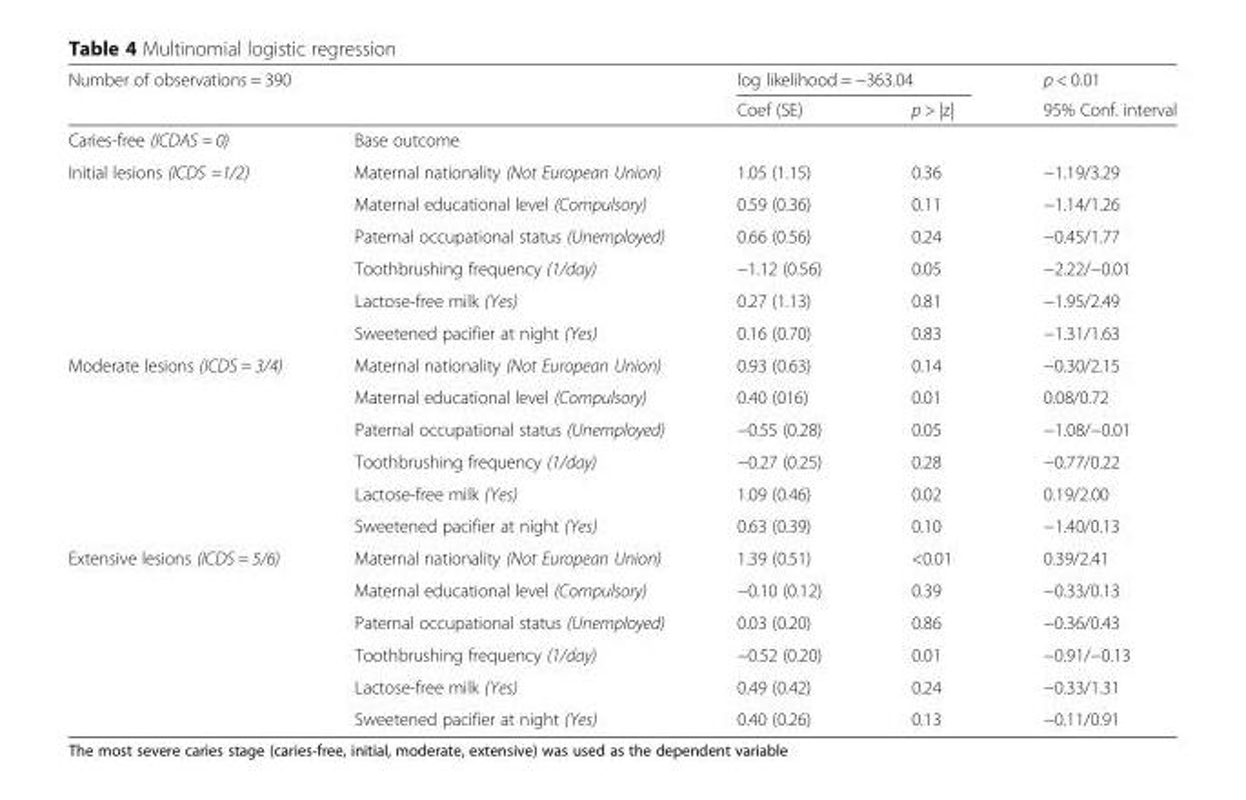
<table><thead><tr><td colspan="2">Number of observations = 390</td><td colspan="2">log likelihood = −363.04</td><td rowspan="2">p &lt; 0.01 95% Conf. interval</td></tr><tr><td></td><td></td><td>Coef (SE)</td><td>p &gt; |z|</td></tr></thead><tbody><tr><td>Caries-free (ICDAS = 0)</td><td colspan="4">Base outcome</td></tr><tr><td rowspan="6">Initial lesions (ICDS =1/2)</td><td>Maternal nationality (Not European Union)</td><td>1.05 (1.15)</td><td>0.36</td><td>−1.19/3.29</td></tr><tr><td>Maternal educational level (Compulsory)</td><td>0.59 (0.36)</td><td>0.11</td><td>−1.14/1.26</td></tr><tr><td>Paternal occupational status (Unemployed)</td><td>0.66 (0.56)</td><td>0.24</td><td>−0.45/1.77</td></tr><tr><td>Toothbrushing frequency (1/day)</td><td>−1.12 (0.56)</td><td>0.05</td><td>−2.22/−0.01</td></tr><tr><td>Lactose-free milk (Yes)</td><td>0.27 (1.13)</td><td>0.81</td><td>−1.95/2.49</td></tr><tr><td>Sweetened pacifier at night (Yes)</td><td>0.16 (0.70)</td><td>0.83</td><td>−1.31/1.63</td></tr><tr><td rowspan="6">Moderate lesions (ICDS = 3/4)</td><td>Maternal nationality (Not European Union)</td><td>0.93 (0.63)</td><td>0.14</td><td>−0.30/2.15</td></tr><tr><td>Maternal educational level (Compulsory)</td><td>0.40 (016)</td><td>0.01</td><td>0.08/0.72</td></tr><tr><td>Paternal occupational status (Unemployed)</td><td>−0.55 (0.28)</td><td>0.05</td><td>−1.08/−0.01</td></tr><tr><td>Toothbrushing frequency (1/day)</td><td>−0.27 (0.25)</td><td>0.28</td><td>−0.77/0.22</td></tr><tr><td>Lactose-free milk (Yes)</td><td>1.09 (0.46)</td><td>0.02</td><td>0.19/2.00</td></tr><tr><td>Sweetened pacifier at night (Yes)</td><td>0.63 (0.39)</td><td>0.10</td><td>−1.40/0.13</td></tr><tr><td rowspan="6">Extensive lesions (ICDS = 5/6)</td><td>Maternal nationality (Not European Union)</td><td>1.39 (0.51)</td><td>&lt;0.01</td><td>0.39/2.41</td></tr><tr><td>Maternal educational level (Compulsory)</td><td>−0.10 (0.12)</td><td>0.39</td><td>−0.33/0.13</td></tr><tr><td>Paternal occupational status (Unemployed)</td><td>0.03 (0.20)</td><td>0.86</td><td>−0.36/0.43</td></tr><tr><td>Toothbrushing frequency (1/day)</td><td>−0.52 (0.20)</td><td>0.01</td><td>−0.91/−0.13</td></tr><tr><td>Lactose-free milk (Yes)</td><td>0.49 (0.42)</td><td>0.24</td><td>−0.33/1.31</td></tr><tr><td>Sweetened pacifier at night (Yes)</td><td>0.40 (0.26)</td><td>0.13</td><td>−0.11/0.91</td></tr></tbody></table>